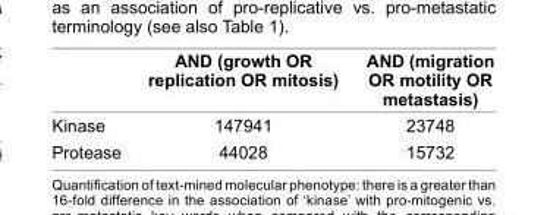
<table><thead><tr><td></td><td>AnD (growth OR replication OR mitosis)</td><td>AnD (migration OR motility OR metastasis)</td></tr></thead><tbody><tr><td>Kinase</td><td>147941</td><td>23748</td></tr><tr><td>Protease</td><td>44028</td><td>15732</td></tr></tbody></table>